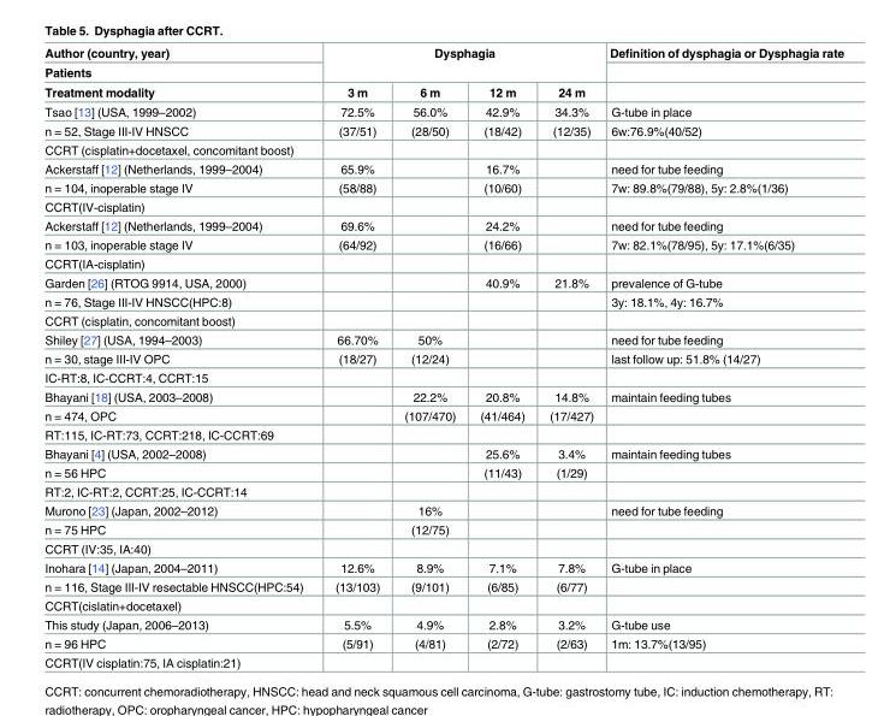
<table><thead><tr><td rowspan="3">Author (country, year) Patients Treatment modality</td><td rowspan="2" colspan="4">Dysphagia</td><td rowspan="3">Definition of dysphagia or Dysphagia rate</td></tr><tr></tr><tr><td>3 m</td><td>6 m</td><td>12 m</td><td>24 m</td></tr></thead><tbody><tr><td>Tsao [13] (USA, 1999–2002)</td><td>72.5%</td><td>56.0%</td><td>42.9%</td><td>34.3%</td><td>G-tube in place</td></tr><tr><td>n = 52, Stage III-IV HNSCC</td><td>(37/51)</td><td>(28/50)</td><td>(18/42)</td><td>(12/35)</td><td>6w:76.9%(40/52)</td></tr><tr><td colspan="6">CCRT (cisplatin+docetaxel, concomitant boost)</td></tr><tr><td>Ackerstaff [12] (Netherlands, 1999–2004)</td><td>65.9%</td><td></td><td>16.7%</td><td></td><td>need for tube feeding</td></tr><tr><td>n = 104, inoperable stage IV</td><td>(58/88)</td><td></td><td>(10/60)</td><td></td><td>7w: 89.8%(79/88), 5y: 2.8%(1/36)</td></tr><tr><td colspan="6">CCRT(IV-cisplatin)</td></tr><tr><td>Ackerstaff [12] (Netherlands, 1999–2004)</td><td>69.6%</td><td></td><td>24.2%</td><td></td><td>need for tube feeding</td></tr><tr><td>n = 103, inoperable stage IV</td><td>(64/92)</td><td></td><td>(16/66)</td><td></td><td>7w: 82.1%(78/95), 5y: 17.1%(6/35)</td></tr><tr><td colspan="6">CCRT(IA-cisplatin)</td></tr><tr><td>Garden [26] (RTOG 9914, USA, 2000)</td><td></td><td></td><td>40.9%</td><td>21.8%</td><td>prevalence of G-tube</td></tr><tr><td>n = 76, Stage III-IV HNSCC(HPC:8)</td><td></td><td></td><td></td><td></td><td>3y: 18.1%, 4y: 16.7%</td></tr><tr><td colspan="6">CCRT (cisplatin, concomitant boost)</td></tr><tr><td>Shiley [27] (USA, 1994–2003)</td><td>66.70%</td><td>50%</td><td></td><td></td><td>need for tube feeding</td></tr><tr><td>n = 30, stage III-IV OPC</td><td>(18/27)</td><td>(12/24)</td><td></td><td></td><td>last follow up: 51.8% (14/27)</td></tr><tr><td colspan="6">IC-RT:8, IC-CCRT:4, CCRT:15</td></tr><tr><td>Bhayani [18] (USA, 2003–2008)</td><td></td><td>22.2%</td><td>20.8%</td><td>14.8%</td><td>maintain feeding tubes</td></tr><tr><td>n = 474, OPC</td><td></td><td>(107/470)</td><td>(41/464)</td><td>(17/427)</td><td></td></tr><tr><td colspan="6">RT:115, IC-RT:73, CCRT:218, IC-CCRT:69</td></tr><tr><td>Bhayani [4] (USA, 2002–2008)</td><td></td><td></td><td>25.6%</td><td>3.4%</td><td>maintain feeding tubes</td></tr><tr><td>n = 56 HPC</td><td></td><td></td><td>(11/43)</td><td>(1/29)</td><td></td></tr><tr><td colspan="6">RT:2, IC-RT:2, CCRT:25, IC-CCRT:14</td></tr><tr><td>Murono [23] (Japan, 2002–2012)</td><td></td><td>16%</td><td></td><td></td><td>need for tube feeding</td></tr><tr><td>n = 75 HPC</td><td></td><td>(12/75)</td><td></td><td></td><td></td></tr><tr><td colspan="6">CCRT (IV:35, IA:40)</td></tr><tr><td>Inohara [14] (Japan, 2004–2011)</td><td>12.6%</td><td>8.9%</td><td>7.1%</td><td>7.8%</td><td>G-tube in place</td></tr><tr><td>n = 116, Stage III-IV resectable HNSCC(HPC:54)</td><td>(13/103)</td><td>(9/101)</td><td>(6/85)</td><td>(6/77)</td><td></td></tr><tr><td colspan="6">CCRT(cislatin+docetaxel)</td></tr><tr><td>This study (Japan, 2006–2013)</td><td>5.5%</td><td>4.9%</td><td>2.8%</td><td>3.2%</td><td>G-tube use</td></tr><tr><td>n = 96 HPC</td><td>(5/91)</td><td>(4/81)</td><td>(2/72)</td><td>(2/63)</td><td>1m: 13.7%(13/95)</td></tr><tr><td>CCRT(IV cisplatin:75, IA cisplatin:21)</td><td></td><td></td><td></td><td></td><td></td></tr></tbody></table>